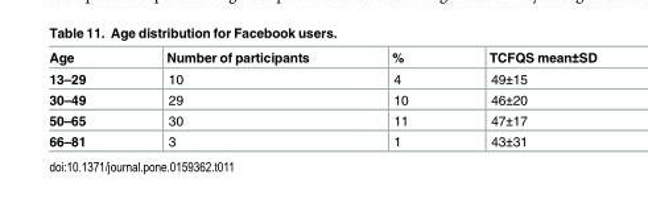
<table><thead><tr><td>Age</td><td>Number of participants</td><td>%</td><td>TCFQS mean±SD</td></tr></thead><tbody><tr><td>13–29</td><td>10</td><td>4</td><td>49±15</td></tr><tr><td>30–49</td><td>29</td><td>10</td><td>46±20</td></tr><tr><td>50–65</td><td>30</td><td>11</td><td>47±17</td></tr><tr><td>66–81</td><td>3</td><td>1</td><td>43±31</td></tr></tbody></table>